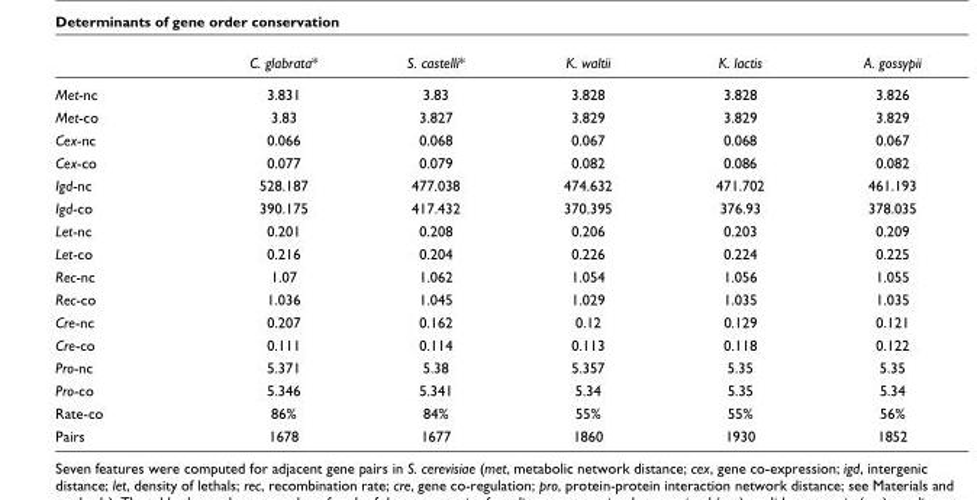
<table><thead><tr><td></td><td>C. glabrata*</td><td>S. castelli*</td><td>K. waltii</td><td>K. lactis</td><td>A. gossypii</td></tr></thead><tbody><tr><td>Met-nc</td><td>3.831</td><td>3.83</td><td>3.828</td><td>3.828</td><td>3.826</td></tr><tr><td>Met-co</td><td>3.83</td><td>3.827</td><td>3.829</td><td>3.829</td><td>3.829</td></tr><tr><td>Cex-nc</td><td>0.066</td><td>0.068</td><td>0.067</td><td>0.068</td><td>0.067</td></tr><tr><td>Cex-co</td><td>0.077</td><td>0.079</td><td>0.082</td><td>0.086</td><td>0.082</td></tr><tr><td>Igd-nc</td><td>528.187</td><td>477.038</td><td>474.632</td><td>471.702</td><td>461.193</td></tr><tr><td>Igd-co</td><td>390.175</td><td>417.432</td><td>370.395</td><td>376.93</td><td>378.035</td></tr><tr><td>Let-nc</td><td>0.201</td><td>0.208</td><td>0.206</td><td>0.203</td><td>0.209</td></tr><tr><td>Let-co</td><td>0.216</td><td>0.204</td><td>0.226</td><td>0.224</td><td>0.225</td></tr><tr><td>Rec-nc</td><td>1.07</td><td>1.062</td><td>1.054</td><td>1.056</td><td>1.055</td></tr><tr><td>Rec-co</td><td>1.036</td><td>1.045</td><td>1.029</td><td>1.035</td><td>1.035</td></tr><tr><td>Cre-nc</td><td>0.207</td><td>0.162</td><td>0.12</td><td>0.129</td><td>0.121</td></tr><tr><td>Cre-co</td><td>0.111</td><td>0.114</td><td>0.113</td><td>0.118</td><td>0.122</td></tr><tr><td>Pro-nc</td><td>5.371</td><td>5.38</td><td>5.357</td><td>5.35</td><td>5.35</td></tr><tr><td>Pro-co</td><td>5.346</td><td>5.341</td><td>5.34</td><td>5.35</td><td>5.34</td></tr><tr><td>Rate-co</td><td>86%</td><td>84%</td><td>55%</td><td>55%</td><td>56%</td></tr><tr><td>Pairs</td><td>1678</td><td>1677</td><td>1860</td><td>1930</td><td>1852</td></tr></tbody></table>